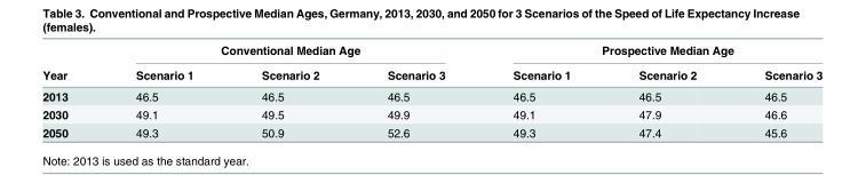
<table><thead><tr><td rowspan="2">Year</td><td colspan="3">Conventional Median Age</td><td colspan="3">Prospective Median Age</td></tr><tr><td>Scenario 1</td><td>Scenario 2</td><td>Scenario 3</td><td>Scenario 1</td><td>Scenario 2</td><td>Scenario 3</td></tr></thead><tbody><tr><td>2013</td><td>46.5</td><td>46.5</td><td>46.5</td><td>46.5</td><td>46.5</td><td>46.5</td></tr><tr><td>2030</td><td>49.1</td><td>49.5</td><td>49.9</td><td>49.1</td><td>47.9</td><td>46.6</td></tr><tr><td>2050</td><td>49.3</td><td>50.9</td><td>52.6</td><td>49.3</td><td>47.4</td><td>45.6</td></tr></tbody></table>